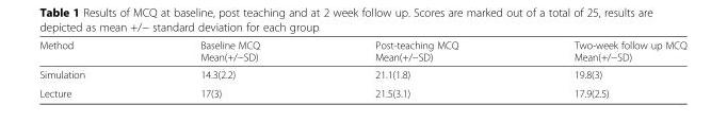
<table><thead><tr><td>Method</td><td>Baseline MCQ Mean(+/−SD)</td><td>Post-teaching MCQ Mean(+/−SD)</td><td>Two-week follow up MCQ Mean(+/−SD)</td></tr></thead><tbody><tr><td>Simulation</td><td>14.3(2.2)</td><td>21.1(1.8)</td><td>19.8(3)</td></tr><tr><td>Lecture</td><td>17(3)</td><td>21.5(3.1)</td><td>17.9(2.5)</td></tr></tbody></table>